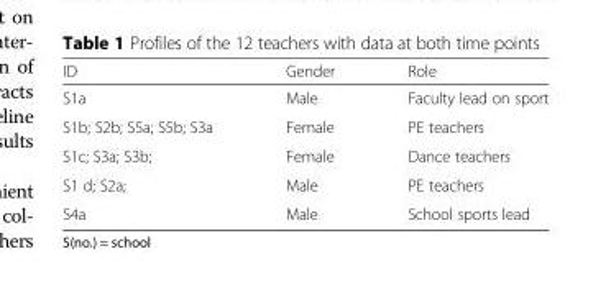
<table><thead><tr><td>ID</td><td>Gender</td><td>Role</td></tr></thead><tbody><tr><td>S1a</td><td>Male</td><td>Faculty lead on sport</td></tr><tr><td>S1b; S2b; S5a; S5b; S3a</td><td>Female</td><td>PE teachers</td></tr><tr><td>S1c; S3a; S3b;</td><td>Female</td><td>Dance teachers</td></tr><tr><td>S1 d; S2a;</td><td>Male</td><td>PE teachers</td></tr><tr><td>S4a</td><td>Male</td><td>School sports lead</td></tr></tbody></table>